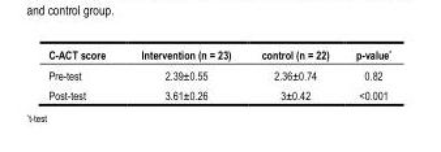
<table><thead><tr><td>C-ACT score</td><td>Intervention (n = 23)</td><td>control (n = 22)</td><td>p-value*</td></tr></thead><tbody><tr><td>Pre-test</td><td>2.39±0.55</td><td>2.36±0.74</td><td>0.82</td></tr><tr><td>Post-test</td><td>3.61±0.26</td><td>3±0.42</td><td>&lt;0.001</td></tr></tbody></table>